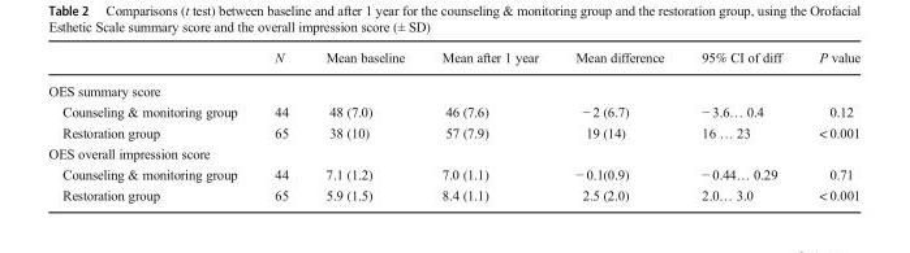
<table><thead><tr><td></td><td>N</td><td>Mean baseline</td><td>Mean after 1 year</td><td>Mean difference</td><td>95% CI of diff</td><td>P value</td></tr></thead><tbody><tr><td colspan="7">OES summary score</td></tr><tr><td>Counseling &amp; monitoring group</td><td>44</td><td>48 (7.0)</td><td>46 (7.6)</td><td>− 2 (6.7)</td><td>− 3.6… 0.4</td><td>0.12</td></tr><tr><td>Restoration group</td><td>65</td><td>38 (10)</td><td>57 (7.9)</td><td>19 (14)</td><td>16 … 23</td><td>&lt; 0.001</td></tr><tr><td colspan="7">OES overall impression score</td></tr><tr><td>Counseling &amp; monitoring group</td><td>44</td><td>7.1 (1.2)</td><td>7.0 (1.1)</td><td>− 0.1(0.9)</td><td>− 0.44… 0.29</td><td>0.71</td></tr><tr><td>Restoration group</td><td>65</td><td>5.9 (1.5)</td><td>8.4 (1.1)</td><td>2.5 (2.0)</td><td>2.0… 3.0</td><td>&lt; 0.001</td></tr></tbody></table>